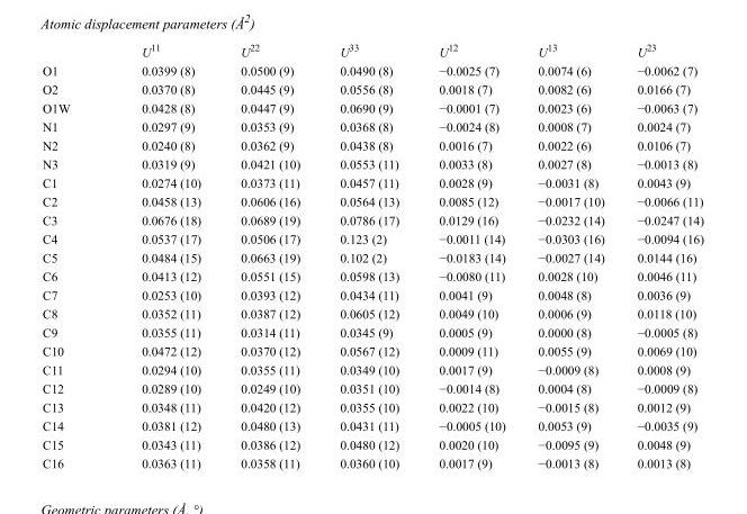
<table><thead><tr><td></td><td>U<sup>11</sup></td><td>U<sup>22</sup></td><td>U<sup>33</sup></td><td>U<sup>12</sup></td><td>U<sup>13</sup></td><td>U<sup>23</sup></td></tr></thead><tbody><tr><td>O1</td><td>0.0399 (8)</td><td>0.0500 (9)</td><td>0.0490 (8)</td><td>−0.0025 (7)</td><td>0.0074 (6)</td><td>−0.0062 (7)</td></tr><tr><td>O2</td><td>0.0370 (8)</td><td>0.0445 (9)</td><td>0.0556 (8)</td><td>0.0018 (7)</td><td>0.0082 (6)</td><td>0.0166 (7)</td></tr><tr><td>O1W</td><td>0.0428 (8)</td><td>0.0447 (9)</td><td>0.0690 (9)</td><td>−0.0001 (7)</td><td>0.0023 (6)</td><td>−0.0063 (7)</td></tr><tr><td>N1</td><td>0.0297 (9)</td><td>0.0353 (9)</td><td>0.0368 (8)</td><td>−0.0024 (8)</td><td>0.0008 (7)</td><td>0.0024 (7)</td></tr><tr><td>N2</td><td>0.0240 (8)</td><td>0.0362 (9)</td><td>0.0438 (8)</td><td>0.0016 (7)</td><td>0.0022 (6)</td><td>0.0106 (7)</td></tr><tr><td>N3</td><td>0.0319 (9)</td><td>0.0421 (10)</td><td>0.0553 (11)</td><td>0.0033 (8)</td><td>0.0027 (8)</td><td>−0.0013 (8)</td></tr><tr><td>C1</td><td>0.0274 (10)</td><td>0.0373 (11)</td><td>0.0457 (11)</td><td>0.0028 (9)</td><td>−0.0031 (8)</td><td>0.0043 (9)</td></tr><tr><td>C2</td><td>0.0458 (13)</td><td>0.0606 (16)</td><td>0.0564 (13)</td><td>0.0085 (12)</td><td>−0.0017 (10)</td><td>−0.0066 (11)</td></tr><tr><td>C3</td><td>0.0676 (18)</td><td>0.0689 (19)</td><td>0.0786 (17)</td><td>0.0129 (16)</td><td>−0.0232 (14)</td><td>−0.0247 (14)</td></tr><tr><td>C4</td><td>0.0537 (17)</td><td>0.0506 (17)</td><td>0.123 (2)</td><td>−0.0011 (14)</td><td>−0.0303 (16)</td><td>−0.0094 (16)</td></tr><tr><td>C5</td><td>0.0484 (15)</td><td>0.0663 (19)</td><td>0.102 (2)</td><td>−0.0183 (14)</td><td>−0.0027 (14)</td><td>0.0144 (16)</td></tr><tr><td>C6</td><td>0.0413 (12)</td><td>0.0551 (15)</td><td>0.0598 (13)</td><td>−0.0080 (11)</td><td>0.0028 (10)</td><td>0.0046 (11)</td></tr><tr><td>C7</td><td>0.0253 (10)</td><td>0.0393 (12)</td><td>0.0434 (11)</td><td>0.0041 (9)</td><td>0.0048 (8)</td><td>0.0036 (9)</td></tr><tr><td>C8</td><td>0.0352 (11)</td><td>0.0387 (12)</td><td>0.0605 (12)</td><td>0.0049 (10)</td><td>0.0006 (9)</td><td>0.0118 (10)</td></tr><tr><td>C9</td><td>0.0355 (11)</td><td>0.0314 (11)</td><td>0.0345 (9)</td><td>0.0005 (9)</td><td>0.0000 (8)</td><td>−0.0005 (8)</td></tr><tr><td>C10</td><td>0.0472 (12)</td><td>0.0370 (12)</td><td>0.0567 (12)</td><td>0.0009 (11)</td><td>0.0055 (9)</td><td>0.0069 (10)</td></tr><tr><td>C11</td><td>0.0294 (10)</td><td>0.0355 (11)</td><td>0.0349 (10)</td><td>0.0017 (9)</td><td>−0.0009 (8)</td><td>0.0008 (9)</td></tr><tr><td>C12</td><td>0.0289 (10)</td><td>0.0249 (10)</td><td>0.0351 (10)</td><td>−0.0014 (8)</td><td>0.0004 (8)</td><td>−0.0009 (8)</td></tr><tr><td>C13</td><td>0.0348 (11)</td><td>0.0420 (12)</td><td>0.0355 (10)</td><td>0.0022 (10)</td><td>−0.0015 (8)</td><td>0.0012 (9)</td></tr><tr><td>C14</td><td>0.0381 (12)</td><td>0.0480 (13)</td><td>0.0431 (11)</td><td>−0.0005 (10)</td><td>0.0053 (9)</td><td>−0.0035 (9)</td></tr><tr><td>C15</td><td>0.0343 (11)</td><td>0.0386 (12)</td><td>0.0480 (12)</td><td>0.0020 (10)</td><td>−0.0095 (9)</td><td>0.0048 (9)</td></tr><tr><td>C16</td><td>0.0363 (11)</td><td>0.0358 (11)</td><td>0.0360 (10)</td><td>0.0017 (9)</td><td>−0.0013 (8)</td><td>0.0013 (8)</td></tr></tbody></table>